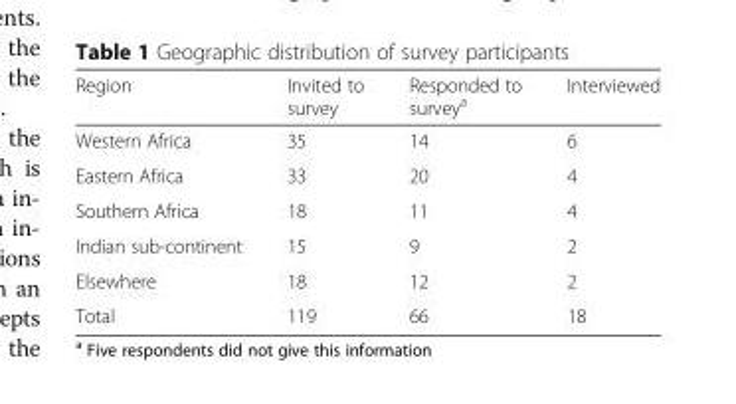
<table><thead><tr><td>Region</td><td>Invited to survey</td><td>Responded to survey<sup>a</sup></td><td>Interviewed</td></tr></thead><tbody><tr><td>Western Africa</td><td>35</td><td>14</td><td>6</td></tr><tr><td>Eastern Africa</td><td>33</td><td>20</td><td>4</td></tr><tr><td>Southern Africa</td><td>18</td><td>11</td><td>4</td></tr><tr><td>Indian sub-continent</td><td>15</td><td>9</td><td>2</td></tr><tr><td>Elsewhere</td><td>18</td><td>12</td><td>2</td></tr><tr><td>Total</td><td>119</td><td>66</td><td>18</td></tr></tbody></table>